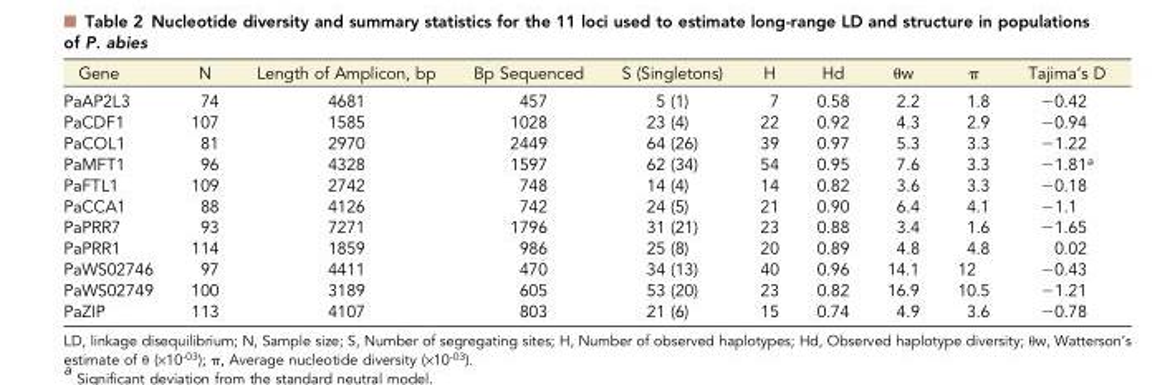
<table><thead><tr><td>Gene</td><td>N</td><td>Length of Amplicon, bp</td><td>Bp Sequenced</td><td>S (Singletons)</td><td>H</td><td>Hd</td><td>θw</td><td>π</td><td>Tajima’s D</td></tr></thead><tbody><tr><td>PaAP2L3</td><td>74</td><td>4681</td><td>457</td><td>5 (1)</td><td>7</td><td>0.58</td><td>2.2</td><td>1.8</td><td>−0.42</td></tr><tr><td>PaCDF1</td><td>107</td><td>1585</td><td>1028</td><td>23 (4)</td><td>22</td><td>0.92</td><td>4.3</td><td>2.9</td><td>−0.94</td></tr><tr><td>PaCOL1</td><td>81</td><td>2970</td><td>2449</td><td>64 (26)</td><td>39</td><td>0.97</td><td>5.3</td><td>3.3</td><td>−1.22</td></tr><tr><td>PaMFT1</td><td>96</td><td>4328</td><td>1597</td><td>62 (34)</td><td>54</td><td>0.95</td><td>7.6</td><td>3.3</td><td>−1.81<sup>a</sup></td></tr><tr><td>PaFTL1</td><td>109</td><td>2742</td><td>748</td><td>14 (4)</td><td>14</td><td>0.82</td><td>3.6</td><td>3.3</td><td>−0.18</td></tr><tr><td>PaCCA1</td><td>88</td><td>4126</td><td>742</td><td>24 (5)</td><td>21</td><td>0.90</td><td>6.4</td><td>4.1</td><td>−1.1</td></tr><tr><td>PaPRR7</td><td>93</td><td>7271</td><td>1796</td><td>31 (21)</td><td>23</td><td>0.88</td><td>3.4</td><td>1.6</td><td>−1.65</td></tr><tr><td>PaPRR1</td><td>114</td><td>1859</td><td>986</td><td>25 (8)</td><td>20</td><td>0.89</td><td>4.8</td><td>4.8</td><td>0.02</td></tr><tr><td>PaWS02746</td><td>97</td><td>4411</td><td>470</td><td>34 (13)</td><td>40</td><td>0.96</td><td>14.1</td><td>12</td><td>−0.43</td></tr><tr><td>PaWS02749</td><td>100</td><td>3189</td><td>605</td><td>53 (20)</td><td>23</td><td>0.82</td><td>16.9</td><td>10.5</td><td>−1.21</td></tr><tr><td>PaZIP</td><td>113</td><td>4107</td><td>803</td><td>21 (6)</td><td>15</td><td>0.74</td><td>4.9</td><td>3.6</td><td>−0.78</td></tr></tbody></table>